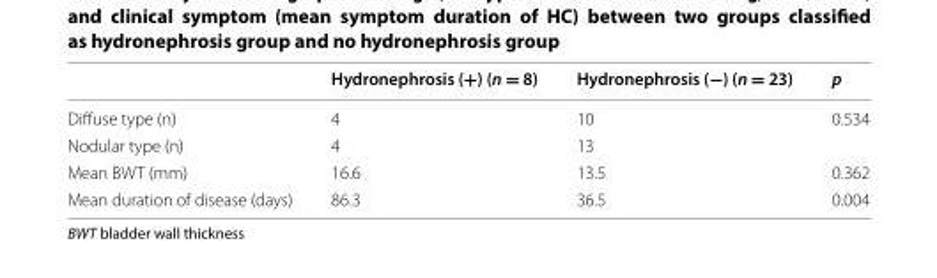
<table><thead><tr><td></td><td>Hydronephrosis (+) (n = 8)</td><td>Hydronephrosis (−) (n = 23)</td><td>p</td></tr></thead><tbody><tr><td>Diffuse type (n)</td><td>4</td><td>10</td><td rowspan="2">0.534</td></tr><tr><td>Nodular type (n)</td><td>4</td><td>13</td></tr><tr><td>Mean BWT (mm)</td><td>16.6</td><td>13.5</td><td>0.362</td></tr><tr><td>Mean duration of disease (days)</td><td>86.3</td><td>36.5</td><td>0.004</td></tr></tbody></table>